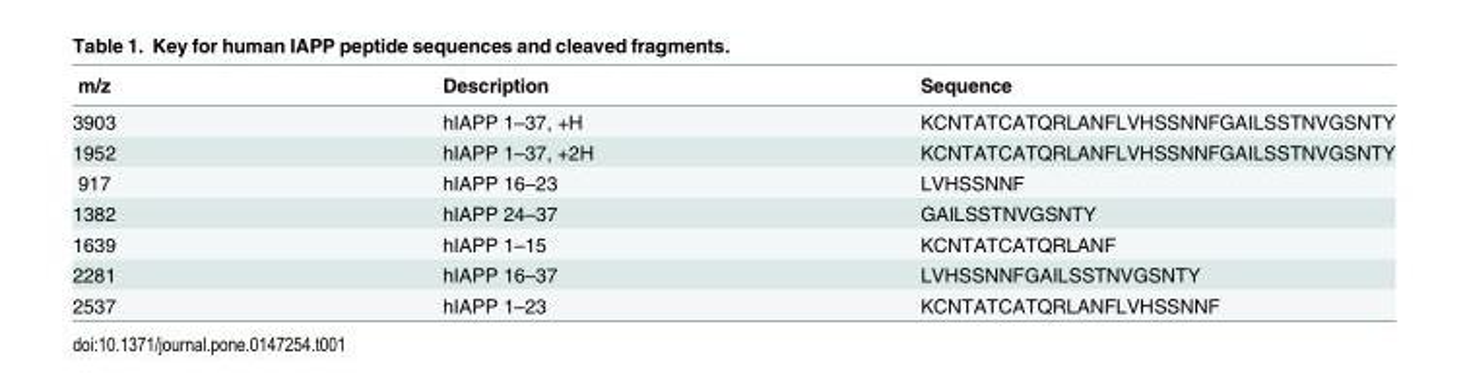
<table><thead><tr><td>m/z</td><td>Description</td><td>Sequence</td></tr></thead><tbody><tr><td>3903</td><td>hIAPP 1–37, +H</td><td>KCNTATCATQRLANFLVHSSNNFGAILSSTNVGSNTY</td></tr><tr><td>1952</td><td>hIAPP 1–37, +2H</td><td>KCNTATCATQRLANFLVHSSNNFGAILSSTNVGSNTY</td></tr><tr><td>917</td><td>hIAPP 16–23</td><td>LVHSSNNF</td></tr><tr><td>1382</td><td>hIAPP 24–37</td><td>GAILSSTNVGSNTY</td></tr><tr><td>1639</td><td>hIAPP 1–15</td><td>KCNTATCATQRLANF</td></tr><tr><td>2281</td><td>hIAPP 16–37</td><td>LVHSSNNFGAILSSTNVGSNTY</td></tr><tr><td>2537</td><td>hIAPP 1–23</td><td>KCNTATCATQRLANFLVHSSNNF</td></tr></tbody></table>